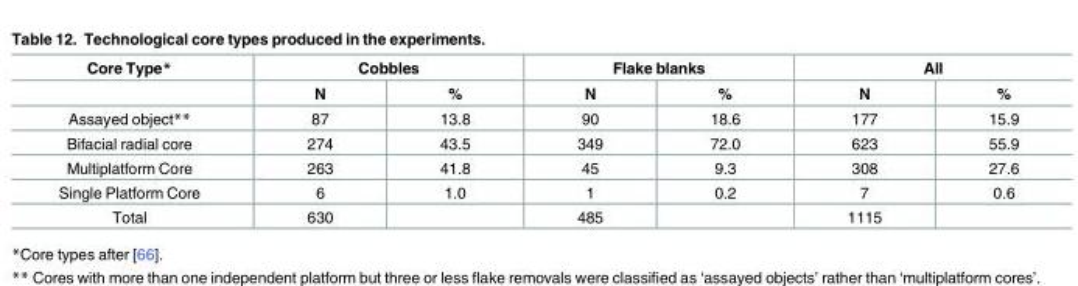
<table><thead><tr><td rowspan="2">Core Type*</td><td colspan="2">Cobbles</td><td colspan="2">Flake blanks</td><td colspan="2">All</td></tr><tr><td>N</td><td>%</td><td>N</td><td>%</td><td>N</td><td>%</td></tr></thead><tbody><tr><td>Assayed object**</td><td>87</td><td>13.8</td><td>90</td><td>18.6</td><td>177</td><td>15.9</td></tr><tr><td>Bifacial radial core</td><td>274</td><td>43.5</td><td>349</td><td>72.0</td><td>623</td><td>55.9</td></tr><tr><td>Multiplatform Core</td><td>263</td><td>41.8</td><td>45</td><td>9.3</td><td>308</td><td>27.6</td></tr><tr><td>Single Platform Core</td><td>6</td><td>1.0</td><td>1</td><td>0.2</td><td>7</td><td>0.6</td></tr><tr><td>Total</td><td>630</td><td></td><td>485</td><td></td><td>1115</td><td></td></tr></tbody></table>